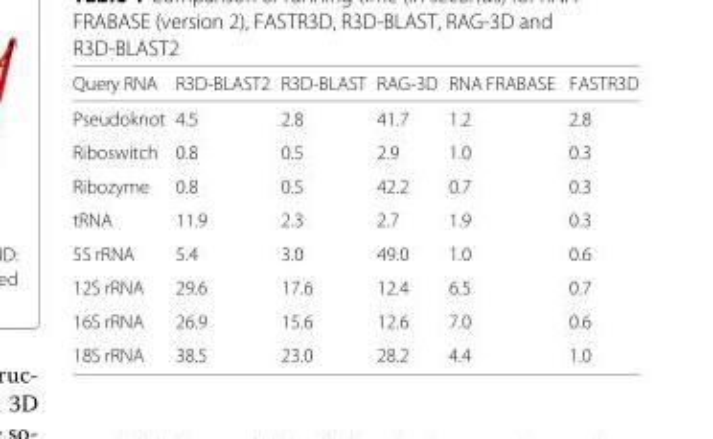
<table><thead><tr><td>Query RNA</td><td>R3D-BLAST2</td><td>R3D-BLAST</td><td>RAG-3D</td><td>RNA FRABASE</td><td>FASTR3D</td></tr></thead><tbody><tr><td>Pseudoknot</td><td>4.5</td><td>2.8</td><td>41.7</td><td>1.2</td><td>2.8</td></tr><tr><td>Riboswitch</td><td>0.8</td><td>0.5</td><td>2.9</td><td>1.0</td><td>0.3</td></tr><tr><td>Ribozyme</td><td>0.8</td><td>0.5</td><td>42.2</td><td>0.7</td><td>0.3</td></tr><tr><td>tRNA</td><td>11.9</td><td>2.3</td><td>2.7</td><td>1.9</td><td>0.3</td></tr><tr><td>5S rRNA</td><td>5.4</td><td>3.0</td><td>49.0</td><td>1.0</td><td>0.6</td></tr><tr><td>12S rRNA</td><td>29.6</td><td>17.6</td><td>12.4</td><td>6.5</td><td>0.7</td></tr><tr><td>16S rRNA</td><td>26.9</td><td>15.6</td><td>12.6</td><td>7.0</td><td>0.6</td></tr><tr><td>18S rRNA</td><td>38.5</td><td>23.0</td><td>28.2</td><td>4.4</td><td>1.0</td></tr></tbody></table>